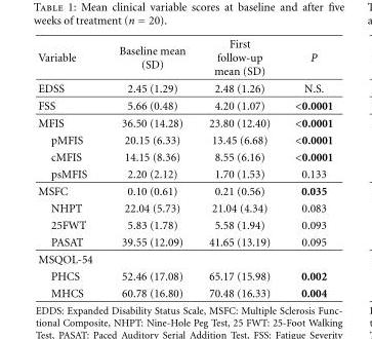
<table><thead><tr><td>Variable</td><td>Baseline mean (SD)</td><td>First follow-up mean (SD)</td><td>P</td></tr></thead><tbody><tr><td>EDSS</td><td>2.45 (1.29)</td><td>2.48 (1.26)</td><td>N.S.</td></tr><tr><td>FSS</td><td>5.66 (0.48)</td><td>4.20 (1.07)</td><td>&lt;0.0001</td></tr><tr><td>MFIS</td><td>36.50 (14.28)</td><td>23.80 (12.40)</td><td>&lt;0.0001</td></tr><tr><td>pMFIS</td><td>20.15 (6.33)</td><td>13.45 (6.68)</td><td>&lt;0.0001</td></tr><tr><td>cMFIS</td><td>14.15 (8.36)</td><td>8.55 (6.16)</td><td>&lt;0.0001</td></tr><tr><td>psMFIS</td><td>2.20 (2.12)</td><td>1.70 (1.53)</td><td>0.133</td></tr><tr><td>MSFC</td><td>0.10 (0.61)</td><td>0.21 (0.56)</td><td>0.035</td></tr><tr><td>NHPT</td><td>22.04 (5.73)</td><td>21.04 (4.34)</td><td>0.083</td></tr><tr><td>25FWT</td><td>5.83 (1.78)</td><td>5.58 (1.94)</td><td>0.093</td></tr><tr><td>PASAT</td><td>39.55 (12.09)</td><td>41.65 (13.19)</td><td>0.095</td></tr><tr><td colspan="4">MSQOL-54</td></tr><tr><td>PHCS</td><td>52.46 (17.08)</td><td>65.17 (15.98)</td><td>0.002</td></tr><tr><td>MHCS</td><td>60.78 (16.80)</td><td>70.48 (16.33)</td><td>0.004</td></tr></tbody></table>